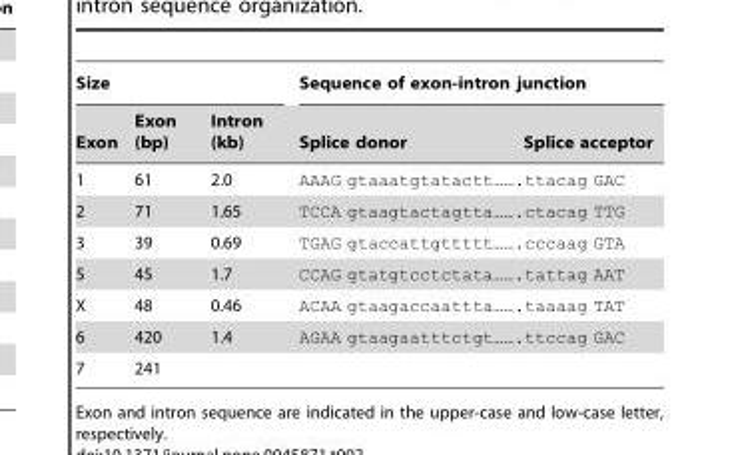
<table><thead><tr><td colspan="3">Size</td><td rowspan="2">Sequence of exon-intron junction Splice donor Splice acceptor</td></tr><tr><td>Exon</td><td>Exon (bp)</td><td>Intron (kb)</td></tr></thead><tbody><tr><td>1</td><td>61</td><td>2.0</td><td>AAAG gtaaatgtatactt…….ttacag GAC</td></tr><tr><td>2</td><td>71</td><td>1.65</td><td>TCCA gtaagtactagtta…….ctacag TTG</td></tr><tr><td>3</td><td>39</td><td>0.69</td><td>TGAG gtaccattgttttt…….cccaag GTA</td></tr><tr><td>5</td><td>45</td><td>1.7</td><td>CCAG gtatgtcctctata…….tattag AAT</td></tr><tr><td>X</td><td>48</td><td>0.46</td><td>ACAA gtaagaccaattta…….taaaag TAT</td></tr><tr><td>6</td><td>420</td><td>1.4</td><td>AGAA gtaagaatttctgt…….ttccag GAC</td></tr><tr><td>7</td><td>241</td><td></td><td></td></tr></tbody></table>